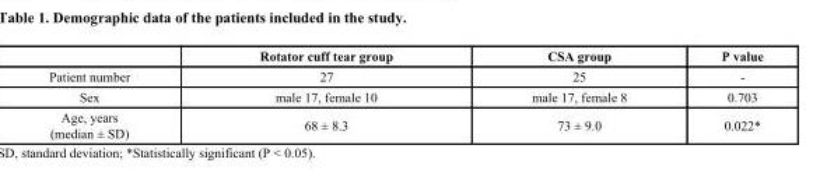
<table><thead><tr><td></td><td>Rotator cuff tear group</td><td>CSA group</td><td>P value</td></tr></thead><tbody><tr><td>Patient number</td><td>27</td><td>25</td><td>-</td></tr><tr><td>Sex</td><td>male 17, female 10</td><td>male 17, female 8</td><td>0.703</td></tr><tr><td>Age, years (median ± SD)</td><td>68 ± 8.3</td><td>73 ± 9.0</td><td>0.022*</td></tr></tbody></table>